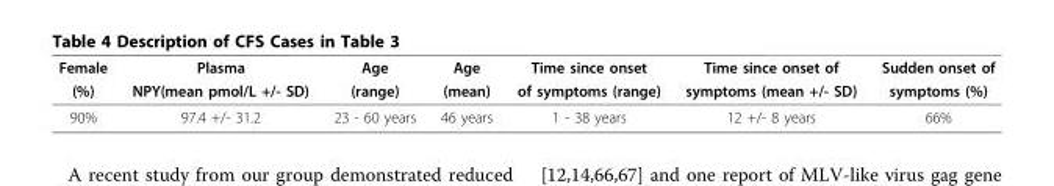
<table><thead><tr><td rowspan="2">Female (%)</td><td rowspan="2">Plasma NPY(mean pmol/L +/- SD)</td><td rowspan="2">Age (range)</td><td rowspan="2">Age (mean)</td><td rowspan="2">Time since onset of symptoms (range)</td><td rowspan="2">Time since onset of symptoms (mean +/- SD)</td><td rowspan="2">Sudden onset of symptoms (%)</td></tr><tr></tr></thead><tbody><tr><td>90%</td><td>97.4 +/- 31.2</td><td>23 - 60 years</td><td>46 years</td><td>1 - 38 years</td><td>12 +/- 8 years</td><td>66%</td></tr></tbody></table>